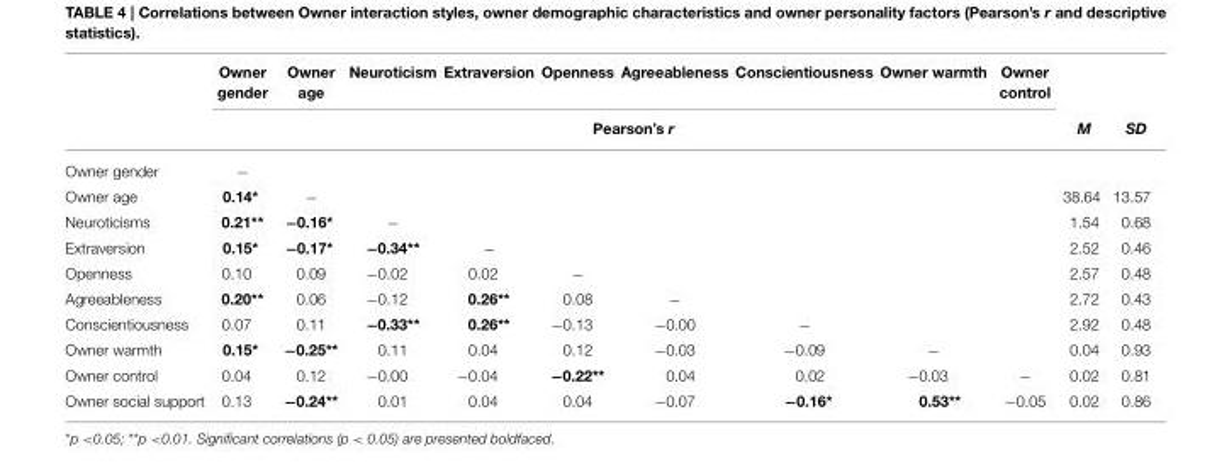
<table><thead><tr><td rowspan="2"></td><td>Owner gender</td><td>Owner age</td><td>Neuroticism</td><td>Extraversion</td><td>Openness</td><td>Agreeableness</td><td>Conscientiousness</td><td>Owner warmth</td><td>Owner control</td><td rowspan="2">M</td><td rowspan="2">SD</td></tr><tr><td colspan="9">Pearson’s r</td></tr></thead><tbody><tr><td>Owner gender</td><td>−</td><td></td><td></td><td></td><td></td><td></td><td></td><td></td><td></td><td></td><td></td></tr><tr><td>Owner age</td><td>0.14*</td><td>−</td><td></td><td></td><td></td><td></td><td></td><td></td><td></td><td>38.64</td><td>13.57</td></tr><tr><td>Neuroticisms</td><td>0.21**</td><td>−0.16*</td><td>−</td><td></td><td></td><td></td><td></td><td></td><td></td><td>1.54</td><td>0.68</td></tr><tr><td>Extraversion</td><td>0.15*</td><td>−0.17*</td><td>−0.34**</td><td>−</td><td></td><td></td><td></td><td></td><td></td><td>2.52</td><td>0.46</td></tr><tr><td>Openness</td><td>0.10</td><td>0.09</td><td>−0.02</td><td>0.02</td><td>−</td><td></td><td></td><td></td><td></td><td>2.57</td><td>0.48</td></tr><tr><td>Agreeableness</td><td>0.20**</td><td>0.06</td><td>−0.12</td><td>0.26**</td><td>0.08</td><td>−</td><td></td><td></td><td></td><td>2.72</td><td>0.43</td></tr><tr><td>Conscientiousness</td><td>0.07</td><td>0.11</td><td>−0.33**</td><td>0.26**</td><td>−0.13</td><td>−0.00</td><td>−</td><td></td><td></td><td>2.92</td><td>0.48</td></tr><tr><td>Owner warmth</td><td>0.15*</td><td>−0.25**</td><td>0.11</td><td>0.04</td><td>0.12</td><td>−0.03</td><td>−0.09</td><td>−</td><td></td><td>0.04</td><td>0.93</td></tr><tr><td>Owner control</td><td>0.04</td><td>0.12</td><td>−0.00</td><td>−0.04</td><td>−0.22**</td><td>0.04</td><td>0.02</td><td>−0.03</td><td>−</td><td>0.02</td><td>0.81</td></tr><tr><td>Owner social support</td><td>0.13</td><td>−0.24**</td><td>0.01</td><td>0.04</td><td>0.04</td><td>−0.07</td><td>−0.16*</td><td>0.53**</td><td>−0.05</td><td>0.02</td><td>0.86</td></tr></tbody></table>